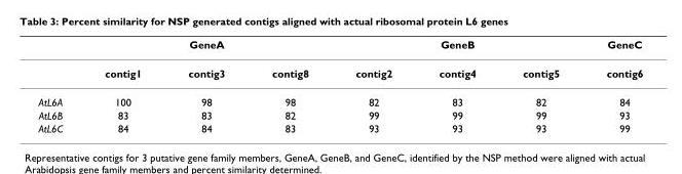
<table><thead><tr><td rowspan="2"></td><td colspan="3">GeneA</td><td colspan="3">GeneB</td><td rowspan="2">GeneC contig6</td></tr><tr><td>contig1</td><td>contig3</td><td>contig8</td><td>contig2</td><td>contig4</td><td>contig5</td></tr></thead><tbody><tr><td>AtL6A</td><td>100</td><td>98</td><td>98</td><td>82</td><td>83</td><td>82</td><td>84</td></tr><tr><td>AtL6B</td><td>83</td><td>83</td><td>82</td><td>99</td><td>99</td><td>99</td><td>93</td></tr><tr><td>AtL6C</td><td>84</td><td>84</td><td>83</td><td>93</td><td>93</td><td>93</td><td>99</td></tr></tbody></table>